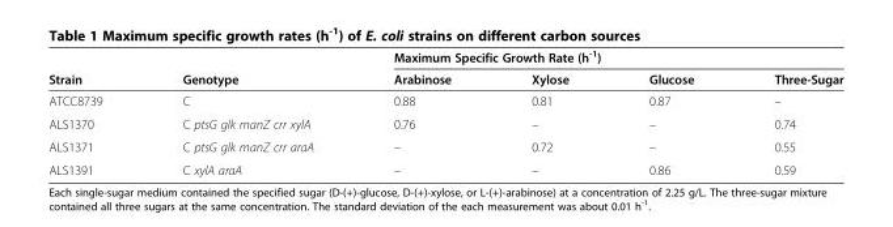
<table><thead><tr><td rowspan="2">Strain</td><td rowspan="2">Genotype</td><td colspan="4">Maximum Specific Growth Rate (h<sup>-1</sup>)</td></tr><tr><td>Arabinose</td><td>Xylose</td><td>Glucose</td><td>Three-Sugar</td></tr></thead><tbody><tr><td>ATCC8739</td><td>C</td><td>0.88</td><td>0.81</td><td>0.87</td><td>–</td></tr><tr><td>ALS1370</td><td>C ptsG glk manZ crr xylA</td><td>0.76</td><td>–</td><td>–</td><td>0.74</td></tr><tr><td>ALS1371</td><td>C ptsG glk manZ crr araA</td><td>–</td><td>0.72</td><td>–</td><td>0.55</td></tr><tr><td>ALS1391</td><td>C xylA araA</td><td>–</td><td>–</td><td>0.86</td><td>0.59</td></tr></tbody></table>